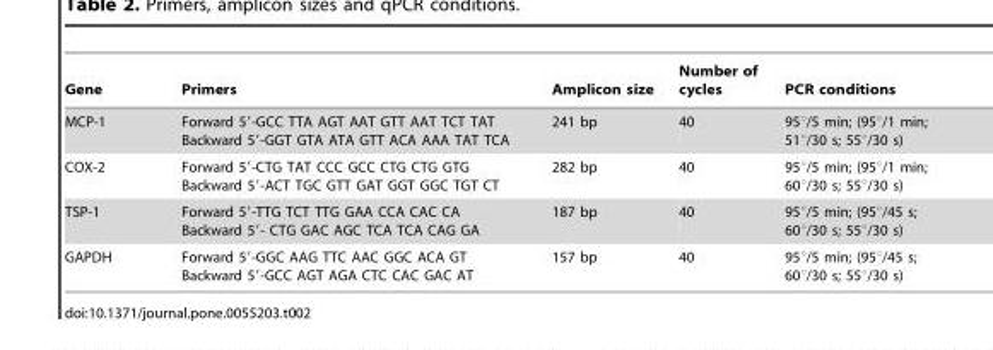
<table><thead><tr><td>Gene</td><td>Primers</td><td>Amplicon size</td><td>Number of cycles</td><td>PCR conditions</td></tr></thead><tbody><tr><td>MCP-1</td><td>Forward 5′-GCC TTA AGT AAT GTT AAT TCT TAT Backward 5′-GGT GTA ATA GTT ACA AAA TAT TCA</td><td>241 bp</td><td>40</td><td>95°/5 min; (95°/1 min; 51°/30 s; 55°/30 s)</td></tr><tr><td>COX-2</td><td>Forward 5′-CTG TAT CCC GCC CTG CTG GTG Backward 5′-ACT TGC GTT GAT GGT GGC TGT CT</td><td>282 bp</td><td>40</td><td>95°/5 min; (95°/1 min; 60°/30 s; 55°/30 s)</td></tr><tr><td>TSP-1</td><td>Forward 5′-TTG TCT TTG GAA CCA CAC CA Backward 5′- CTG GAC AGC TCA TCA CAG GA</td><td>187 bp</td><td>40</td><td>95°/5 min; (95°/45 s; 60°/30 s; 55°/30 s)</td></tr><tr><td>GAPDH</td><td>Forward 5′-GGC AAG TTC AAC GGC ACA GT Backward 5′-GCC AGT AGA CTC CAC GAC AT</td><td>157 bp</td><td>40</td><td>95°/5 min; (95°/45 s; 60°/30 s; 55°/30 s)</td></tr></tbody></table>